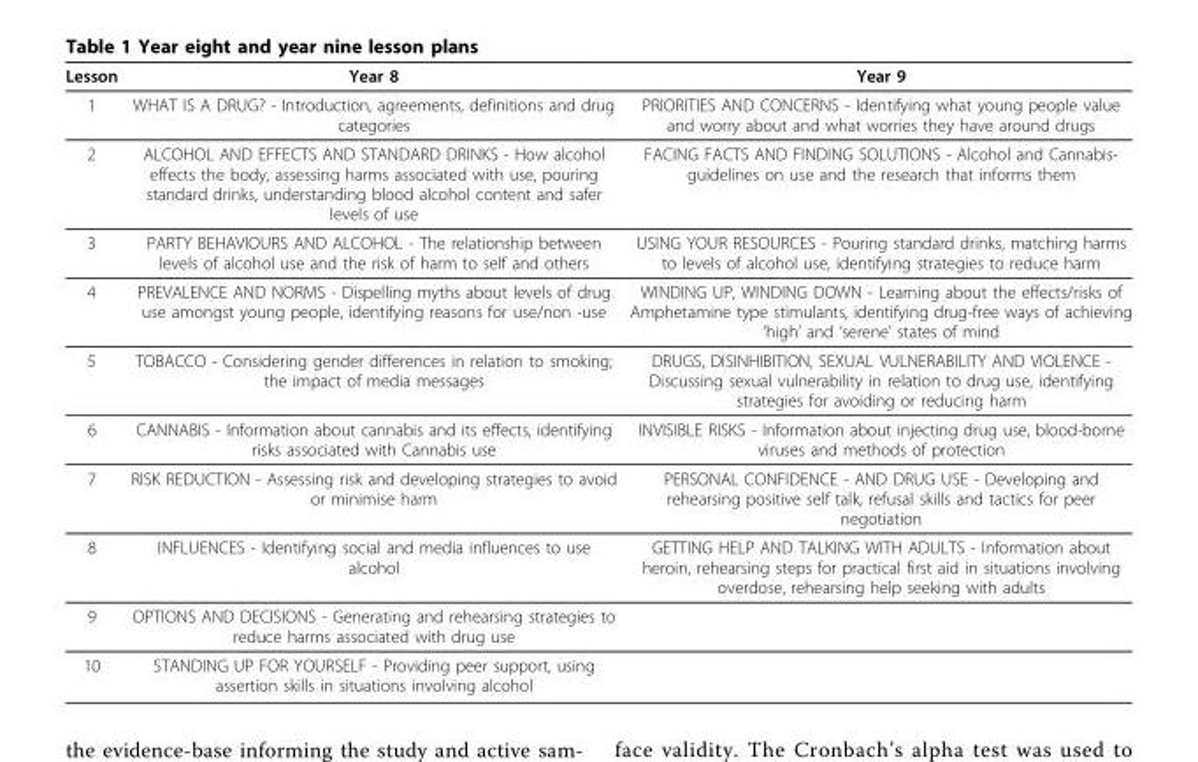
<table><thead><tr><td>Lesson</td><td>Year 8</td><td>Year 9</td></tr></thead><tbody><tr><td>1</td><td>WHAT IS A DRUG? - Introduction, agreements, definitions and drug categories</td><td>PRIORITIES AND CONCERNS - Identifying what young people value and worry about and what worries they have around drugs</td></tr><tr><td>2</td><td>ALCOHOL AND EFFECTS AND STANDARD DRINKS - How alcohol effects the body, assessing harms associated with use, pouring standard drinks, understanding blood alcohol content and safer levels of use</td><td>FACING FACTS AND FINDING SOLUTIONS - Alcohol and Cannabis- guidelines on use and the research that informs them</td></tr><tr><td>3</td><td>PARTY BEHAVIOURS AND ALCOHOL - The relationship between levels of alcohol use and the risk of harm to self and others</td><td>USING YOUR RESOURCES - Pouring standard drinks, matching harms to levels of alcohol use, identifying strategies to reduce harm</td></tr><tr><td>4</td><td>PREVALENCE AND NORMS - Dispelling myths about levels of drug use amongst young people, identifying reasons for use/non -use</td><td>WINDING UP, WINDING DOWN - Learning about the effects/risks of Amphetamine type stimulants, identifying drug-free ways of achieving ‘high’ and ‘serene’ states of mind</td></tr><tr><td>5</td><td>TOBACCO - Considering gender differences in relation to smoking; the impact of media messages</td><td>DRUGS, DISINHIBITION, SEXUAL VULNERABILITY AND VIOLENCE - Discussing sexual vulnerability in relation to drug use, identifying strategies for avoiding or reducing harm</td></tr><tr><td>6</td><td>CANNABIS - Information about cannabis and its effects, identifying risks associated with Cannabis use</td><td>INVISIBLE RISKS - Information about injecting drug use, blood-borne viruses and methods of protection</td></tr><tr><td>7</td><td>RISK REDUCTION - Assessing risk and developing strategies to avoid or minimise harm</td><td>PERSONAL CONFIDENCE - AND DRUG USE - Developing and rehearsing positive self talk, refusal skills and tactics for peer negotiation</td></tr><tr><td>8</td><td>INFLUENCES - Identifying social and media influences to use alcohol</td><td>GETTING HELP AND TALKING WITH ADULTS - Information about heroin, rehearsing steps for practical first aid in situations involving overdose, rehearsing help seeking with adults</td></tr><tr><td>9</td><td>OPTIONS AND DECISIONS - Generating and rehearsing strategies to reduce harms associated with drug use</td><td></td></tr><tr><td>10</td><td>STANDING UP FOR YOURSELF - Providing peer support, using assertion skills in situations involving alcohol</td><td></td></tr></tbody></table>